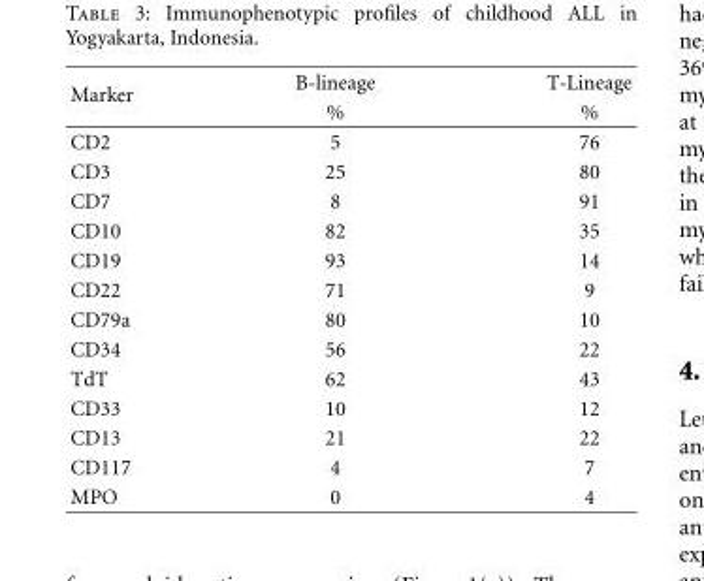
<table><thead><tr><td rowspan="2">Marker</td><td rowspan="2">B-lineage %</td><td rowspan="2">T-Lineage %</td></tr><tr></tr></thead><tbody><tr><td>CD2</td><td>5</td><td>76</td></tr><tr><td>CD3</td><td>25</td><td>80</td></tr><tr><td>CD7</td><td>8</td><td>91</td></tr><tr><td>CD10</td><td>82</td><td>35</td></tr><tr><td>CD19</td><td>93</td><td>14</td></tr><tr><td>CD22</td><td>71</td><td>9</td></tr><tr><td>CD79a</td><td>80</td><td>10</td></tr><tr><td>CD34</td><td>56</td><td>22</td></tr><tr><td>TdT</td><td>62</td><td>43</td></tr><tr><td>CD33</td><td>10</td><td>12</td></tr><tr><td>CD13</td><td>21</td><td>22</td></tr><tr><td>CD117</td><td>4</td><td>7</td></tr><tr><td>MPO</td><td>0</td><td>4</td></tr></tbody></table>